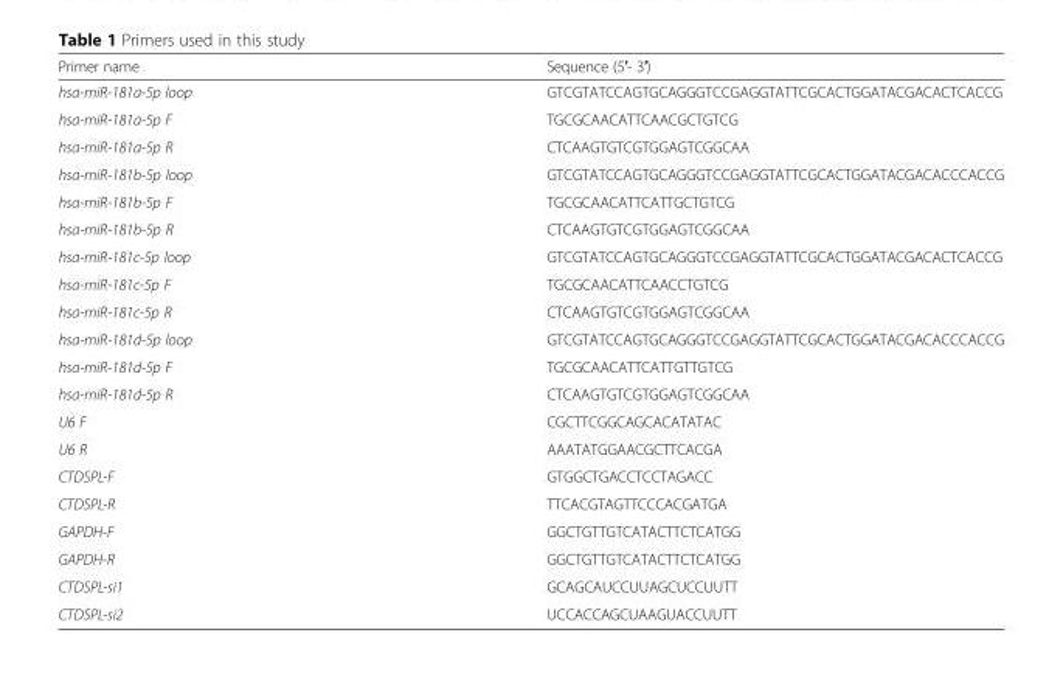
<table><thead><tr><td>Primer name</td><td>Sequence (5′- 3′)</td></tr></thead><tbody><tr><td>hsa-miR-181a-5p loop</td><td>GTCGTATCCAGTGCAGGGTCCGAGGTATTCGCACTGGATACGACACTCACCG</td></tr><tr><td>hsa-miR-181a-5p F</td><td>TGCGCAACATTCAACGCTGTCG</td></tr><tr><td>hsa-miR-181a-5p R</td><td>CTCAAGTGTCGTGGAGTCGGCAA</td></tr><tr><td>hsa-miR-181b-5p loop</td><td>GTCGTATCCAGTGCAGGGTCCGAGGTATTCGCACTGGATACGACACCCACCG</td></tr><tr><td>hsa-miR-181b-5p F</td><td>TGCGCAACATTCATTGCTGTCG</td></tr><tr><td>hsa-miR-181b-5p R</td><td>CTCAAGTGTCGTGGAGTCGGCAA</td></tr><tr><td>hsa-miR-181c-5p loop</td><td>GTCGTATCCAGTGCAGGGTCCGAGGTATTCGCACTGGATACGACACTCACCG</td></tr><tr><td>hsa-miR-181c-5p F</td><td>TGCGCAACATTCAACCTGTCG</td></tr><tr><td>hsa-miR-181c-5p R</td><td>CTCAAGTGTCGTGGAGTCGGCAA</td></tr><tr><td>hsa-miR-181d-5p loop</td><td>GTCGTATCCAGTGCAGGGTCCGAGGTATTCGCACTGGATACGACACCCACCG</td></tr><tr><td>hsa-miR-181d-5p F</td><td>TGCGCAACATTCATTGTTGTCG</td></tr><tr><td>hsa-miR-181d-5p R</td><td>CTCAAGTGTCGTGGAGTCGGCAA</td></tr><tr><td>U6 F</td><td>CGCTTCGGCAGCACATATAC</td></tr><tr><td>U6 R</td><td>AAATATGGAACGCTTCACGA</td></tr><tr><td>CTDSPL-F</td><td>GTGGCTGACCTCCTAGACC</td></tr><tr><td>CTDSPL-R</td><td>TTCACGTAGTTCCCACGATGA</td></tr><tr><td>GAPDH-F</td><td>GGCTGTTGTCATACTTCTCATGG</td></tr><tr><td>GAPDH-R</td><td>GGCTGTTGTCATACTTCTCATGG</td></tr><tr><td>CTDSPL-si1</td><td>GCAGCAUCCUUAGCUCCUUTT</td></tr><tr><td>CTDSPL-si2</td><td>UCCACCAGCUAAGUACCUUTT</td></tr></tbody></table>